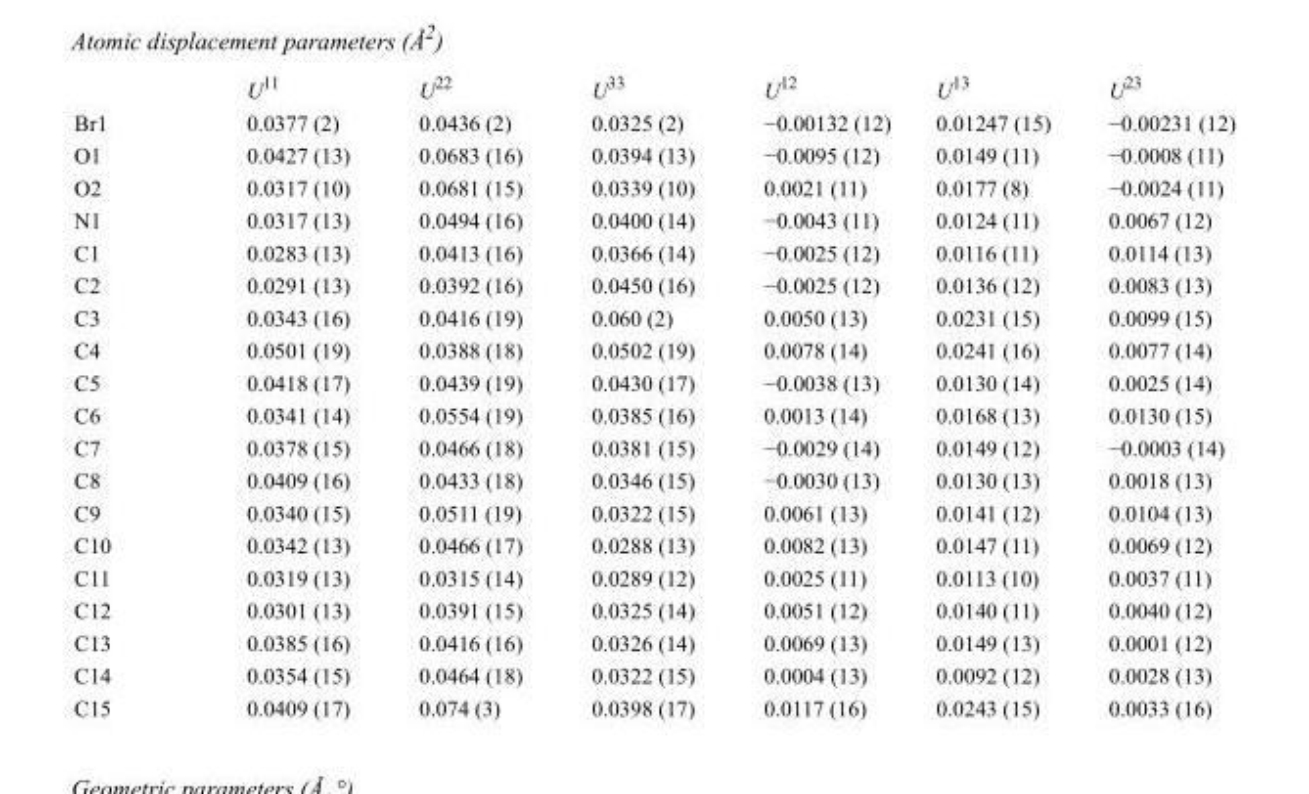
<table><thead><tr><td></td><td>U<sup>11</sup></td><td>U<sup>22</sup></td><td>U<sup>33</sup></td><td>U<sup>12</sup></td><td>U<sup>13</sup></td><td>U<sup>23</sup></td></tr></thead><tbody><tr><td>Br1</td><td>0.0377 (2)</td><td>0.0436 (2)</td><td>0.0325 (2)</td><td>−0.00132 (12)</td><td>0.01247 (15)</td><td>−0.00231 (12)</td></tr><tr><td>O1</td><td>0.0427 (13)</td><td>0.0683 (16)</td><td>0.0394 (13)</td><td>−0.0095 (12)</td><td>0.0149 (11)</td><td>−0.0008 (11)</td></tr><tr><td>O2</td><td>0.0317 (10)</td><td>0.0681 (15)</td><td>0.0339 (10)</td><td>0.0021 (11)</td><td>0.0177 (8)</td><td>−0.0024 (11)</td></tr><tr><td>N1</td><td>0.0317 (13)</td><td>0.0494 (16)</td><td>0.0400 (14)</td><td>−0.0043 (11)</td><td>0.0124 (11)</td><td>0.0067 (12)</td></tr><tr><td>C1</td><td>0.0283 (13)</td><td>0.0413 (16)</td><td>0.0366 (14)</td><td>−0.0025 (12)</td><td>0.0116 (11)</td><td>0.0114 (13)</td></tr><tr><td>C2</td><td>0.0291 (13)</td><td>0.0392 (16)</td><td>0.0450 (16)</td><td>−0.0025 (12)</td><td>0.0136 (12)</td><td>0.0083 (13)</td></tr><tr><td>C3</td><td>0.0343 (16)</td><td>0.0416 (19)</td><td>0.060 (2)</td><td>0.0050 (13)</td><td>0.0231 (15)</td><td>0.0099 (15)</td></tr><tr><td>C4</td><td>0.0501 (19)</td><td>0.0388 (18)</td><td>0.0502 (19)</td><td>0.0078 (14)</td><td>0.0241 (16)</td><td>0.0077 (14)</td></tr><tr><td>C5</td><td>0.0418 (17)</td><td>0.0439 (19)</td><td>0.0430 (17)</td><td>−0.0038 (13)</td><td>0.0130 (14)</td><td>0.0025 (14)</td></tr><tr><td>C6</td><td>0.0341 (14)</td><td>0.0554 (19)</td><td>0.0385 (16)</td><td>0.0013 (14)</td><td>0.0168 (13)</td><td>0.0130 (15)</td></tr><tr><td>C7</td><td>0.0378 (15)</td><td>0.0466 (18)</td><td>0.0381 (15)</td><td>−0.0029 (14)</td><td>0.0149 (12)</td><td>−0.0003 (14)</td></tr><tr><td>C8</td><td>0.0409 (16)</td><td>0.0433 (18)</td><td>0.0346 (15)</td><td>−0.0030 (13)</td><td>0.0130 (13)</td><td>0.0018 (13)</td></tr><tr><td>C9</td><td>0.0340 (15)</td><td>0.0511 (19)</td><td>0.0322 (15)</td><td>0.0061 (13)</td><td>0.0141 (12)</td><td>0.0104 (13)</td></tr><tr><td>C10</td><td>0.0342 (13)</td><td>0.0466 (17)</td><td>0.0288 (13)</td><td>0.0082 (13)</td><td>0.0147 (11)</td><td>0.0069 (12)</td></tr><tr><td>C11</td><td>0.0319 (13)</td><td>0.0315 (14)</td><td>0.0289 (12)</td><td>0.0025 (11)</td><td>0.0113 (10)</td><td>0.0037 (11)</td></tr><tr><td>C12</td><td>0.0301 (13)</td><td>0.0391 (15)</td><td>0.0325 (14)</td><td>0.0051 (12)</td><td>0.0140 (11)</td><td>0.0040 (12)</td></tr><tr><td>C13</td><td>0.0385 (16)</td><td>0.0416 (16)</td><td>0.0326 (14)</td><td>0.0069 (13)</td><td>0.0149 (13)</td><td>0.0001 (12)</td></tr><tr><td>C14</td><td>0.0354 (15)</td><td>0.0464 (18)</td><td>0.0322 (15)</td><td>0.0004 (13)</td><td>0.0092 (12)</td><td>0.0028 (13)</td></tr><tr><td>C15</td><td>0.0409 (17)</td><td>0.074 (3)</td><td>0.0398 (17)</td><td>0.0117 (16)</td><td>0.0243 (15)</td><td>0.0033 (16)</td></tr></tbody></table>